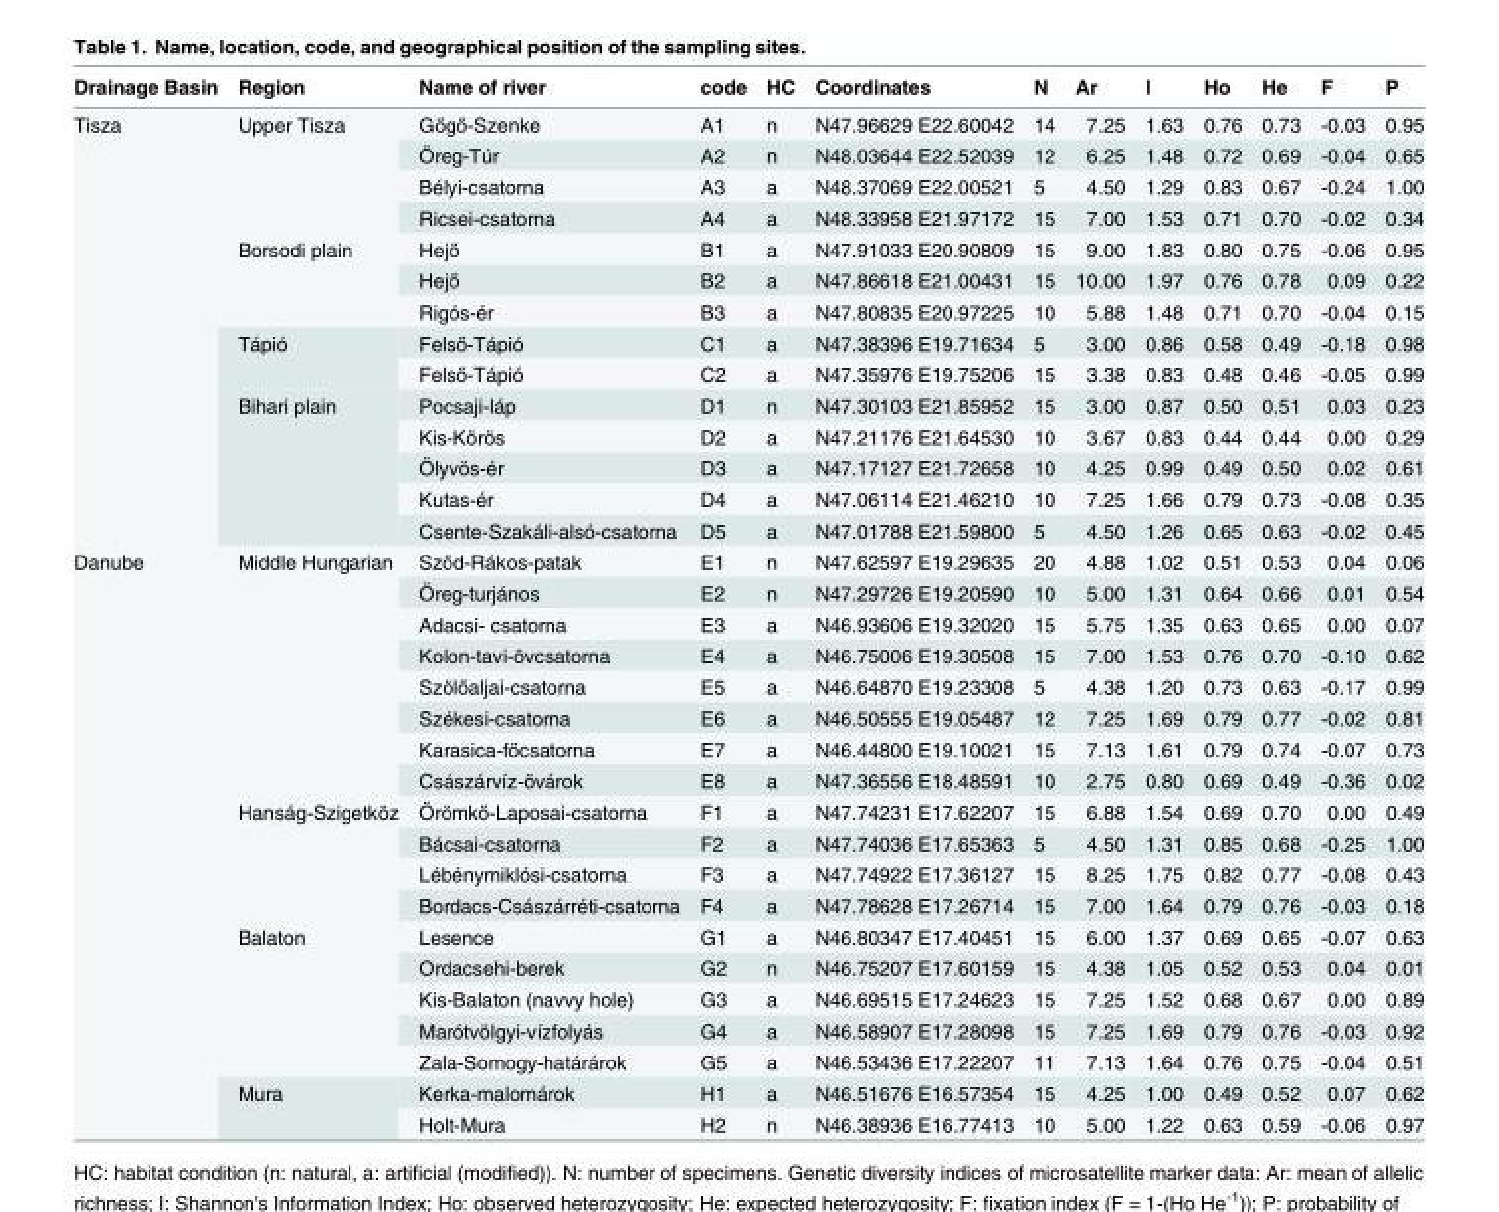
<table><thead><tr><td>Drainage Basin</td><td>Region</td><td>Name of river</td><td>code</td><td>HC</td><td>Coordinates</td><td>N</td><td>Ar</td><td>I</td><td>Ho</td><td>He</td><td>F</td><td>P</td></tr></thead><tbody><tr><td rowspan="14">Tisza</td><td rowspan="4">Upper Tisza</td><td>Gőgő-Szenke</td><td>A1</td><td>n</td><td>N47.96629 E22.60042</td><td>14</td><td>7.25</td><td>1.63</td><td>0.76</td><td>0.73</td><td>-0.03</td><td>0.95</td></tr><tr><td>Öreg-Túr</td><td>A2</td><td>n</td><td>N48.03644 E22.52039</td><td>12</td><td>6.25</td><td>1.48</td><td>0.72</td><td>0.69</td><td>-0.04</td><td>0.65</td></tr><tr><td>Bélyi-csatorna</td><td>A3</td><td>a</td><td>N48.37069 E22.00521</td><td>5</td><td>4.50</td><td>1.29</td><td>0.83</td><td>0.67</td><td>-0.24</td><td>1.00</td></tr><tr><td>Ricsei-csatorna</td><td>A4</td><td>a</td><td>N48.33958 E21.97172</td><td>15</td><td>7.00</td><td>1.53</td><td>0.71</td><td>0.70</td><td>-0.02</td><td>0.34</td></tr><tr><td rowspan="3">Borsodi plain</td><td>Hejő</td><td>B1</td><td>a</td><td>N47.91033 E20.90809</td><td>15</td><td>9.00</td><td>1.83</td><td>0.80</td><td>0.75</td><td>-0.06</td><td>0.95</td></tr><tr><td>Hejő</td><td>B2</td><td>a</td><td>N47.86618 E21.00431</td><td>15</td><td>10.00</td><td>1.97</td><td>0.76</td><td>0.78</td><td>0.09</td><td>0.22</td></tr><tr><td>Rigós-ér</td><td>B3</td><td>a</td><td>N47.80835 E20.97225</td><td>10</td><td>5.88</td><td>1.48</td><td>0.71</td><td>0.70</td><td>-0.04</td><td>0.15</td></tr><tr><td rowspan="2">Tápió</td><td>Felső-Tápió</td><td>C1</td><td>a</td><td>N47.38396 E19.71634</td><td>5</td><td>3.00</td><td>0.86</td><td>0.58</td><td>0.49</td><td>-0.18</td><td>0.98</td></tr><tr><td>Felső-Tápió</td><td>C2</td><td>a</td><td>N47.35976 E19.75206</td><td>15</td><td>3.38</td><td>0.83</td><td>0.48</td><td>0.46</td><td>-0.05</td><td>0.99</td></tr><tr><td rowspan="5">Bihari plain</td><td>Pocsaji-láp</td><td>D1</td><td>n</td><td>N47.30103 E21.85952</td><td>15</td><td>3.00</td><td>0.87</td><td>0.50</td><td>0.51</td><td>0.03</td><td>0.23</td></tr><tr><td>Kis-Körös</td><td>D2</td><td>a</td><td>N47.21176 E21.64530</td><td>10</td><td>3.67</td><td>0.83</td><td>0.44</td><td>0.44</td><td>0.00</td><td>0.29</td></tr><tr><td>Ölyvös-ér</td><td>D3</td><td>a</td><td>N47.17127 E21.72658</td><td>10</td><td>4.25</td><td>0.99</td><td>0.49</td><td>0.50</td><td>0.02</td><td>0.61</td></tr><tr><td>Kutas-ér</td><td>D4</td><td>a</td><td>N47.06114 E21.46210</td><td>10</td><td>7.25</td><td>1.66</td><td>0.79</td><td>0.73</td><td>-0.08</td><td>0.35</td></tr><tr><td>Csente-Szakáli-alsó-csatorna</td><td>D5</td><td>a</td><td>N47.01788 E21.59800</td><td>5</td><td>4.50</td><td>1.26</td><td>0.65</td><td>0.63</td><td>-0.02</td><td>0.45</td></tr><tr><td rowspan="19">Danube</td><td rowspan="8">Middle Hungarian</td><td>Sződ-Rákos-patak</td><td>E1</td><td>n</td><td>N47.62597 E19.29635</td><td>20</td><td>4.88</td><td>1.02</td><td>0.51</td><td>0.53</td><td>0.04</td><td>0.06</td></tr><tr><td>Öreg-turjános</td><td>E2</td><td>n</td><td>N47.29726 E19.20590</td><td>10</td><td>5.00</td><td>1.31</td><td>0.64</td><td>0.66</td><td>0.01</td><td>0.54</td></tr><tr><td>Adacsi- csatorna</td><td>E3</td><td>a</td><td>N46.93606 E19.32020</td><td>15</td><td>5.75</td><td>1.35</td><td>0.63</td><td>0.65</td><td>0.00</td><td>0.07</td></tr><tr><td>Kolon-tavi-övcsatorna</td><td>E4</td><td>a</td><td>N46.75006 E19.30508</td><td>15</td><td>7.00</td><td>1.53</td><td>0.76</td><td>0.70</td><td>-0.10</td><td>0.62</td></tr><tr><td>Szölőaljai-csatorna</td><td>E5</td><td>a</td><td>N46.64870 E19.23308</td><td>5</td><td>4.38</td><td>1.20</td><td>0.73</td><td>0.63</td><td>-0.17</td><td>0.99</td></tr><tr><td>Székesi-csatorna</td><td>E6</td><td>a</td><td>N46.50555 E19.05487</td><td>12</td><td>7.25</td><td>1.69</td><td>0.79</td><td>0.77</td><td>-0.02</td><td>0.81</td></tr><tr><td>Karasica-főcsatorna</td><td>E7</td><td>a</td><td>N46.44800 E19.10021</td><td>15</td><td>7.13</td><td>1.61</td><td>0.79</td><td>0.74</td><td>-0.07</td><td>0.73</td></tr><tr><td>Császárvíz-övárok</td><td>E8</td><td>a</td><td>N47.36556 E18.48591</td><td>10</td><td>2.75</td><td>0.80</td><td>0.69</td><td>0.49</td><td>-0.36</td><td>0.02</td></tr><tr><td rowspan="4">Hanság-Szigetköz</td><td>Örömkő-Laposai-csatorna</td><td>F1</td><td>a</td><td>N47.74231 E17.62207</td><td>15</td><td>6.88</td><td>1.54</td><td>0.69</td><td>0.70</td><td>0.00</td><td>0.49</td></tr><tr><td>Bácsai-csatorna</td><td>F2</td><td>a</td><td>N47.74036 E17.65363</td><td>5</td><td>4.50</td><td>1.31</td><td>0.85</td><td>0.68</td><td>-0.25</td><td>1.00</td></tr><tr><td>Lébénymiklósi-csatorna</td><td>F3</td><td>a</td><td>N47.74922 E17.36127</td><td>15</td><td>8.25</td><td>1.75</td><td>0.82</td><td>0.77</td><td>-0.08</td><td>0.43</td></tr><tr><td>Bordacs-Császárréti-csatorna</td><td>F4</td><td>a</td><td>N47.78628 E17.26714</td><td>15</td><td>7.00</td><td>1.64</td><td>0.79</td><td>0.76</td><td>-0.03</td><td>0.18</td></tr><tr><td rowspan="5">Balaton</td><td>Lesence</td><td>G1</td><td>a</td><td>N46.80347 E17.40451</td><td>15</td><td>6.00</td><td>1.37</td><td>0.69</td><td>0.65</td><td>-0.07</td><td>0.63</td></tr><tr><td>Ordacsehi-berek</td><td>G2</td><td>n</td><td>N46.75207 E17.60159</td><td>15</td><td>4.38</td><td>1.05</td><td>0.52</td><td>0.53</td><td>0.04</td><td>0.01</td></tr><tr><td>Kis-Balaton (navvy hole)</td><td>G3</td><td>a</td><td>N46.69515 E17.24623</td><td>15</td><td>7.25</td><td>1.52</td><td>0.68</td><td>0.67</td><td>0.00</td><td>0.89</td></tr><tr><td>Marótvölgyi-vízfolyás</td><td>G4</td><td>a</td><td>N46.58907 E17.28098</td><td>15</td><td>7.25</td><td>1.69</td><td>0.79</td><td>0.76</td><td>-0.03</td><td>0.92</td></tr><tr><td>Zala-Somogy-határárok</td><td>G5</td><td>a</td><td>N46.53436 E17.22207</td><td>11</td><td>7.13</td><td>1.64</td><td>0.76</td><td>0.75</td><td>-0.04</td><td>0.51</td></tr><tr><td rowspan="2">Mura</td><td>Kerka-malomárok</td><td>H1</td><td>a</td><td>N46.51676 E16.57354</td><td>15</td><td>4.25</td><td>1.00</td><td>0.49</td><td>0.52</td><td>0.07</td><td>0.62</td></tr><tr><td>Holt-Mura</td><td>H2</td><td>n</td><td>N46.38936 E16.77413</td><td>10</td><td>5.00</td><td>1.22</td><td>0.63</td><td>0.59</td><td>-0.06</td><td>0.97</td></tr></tbody></table>